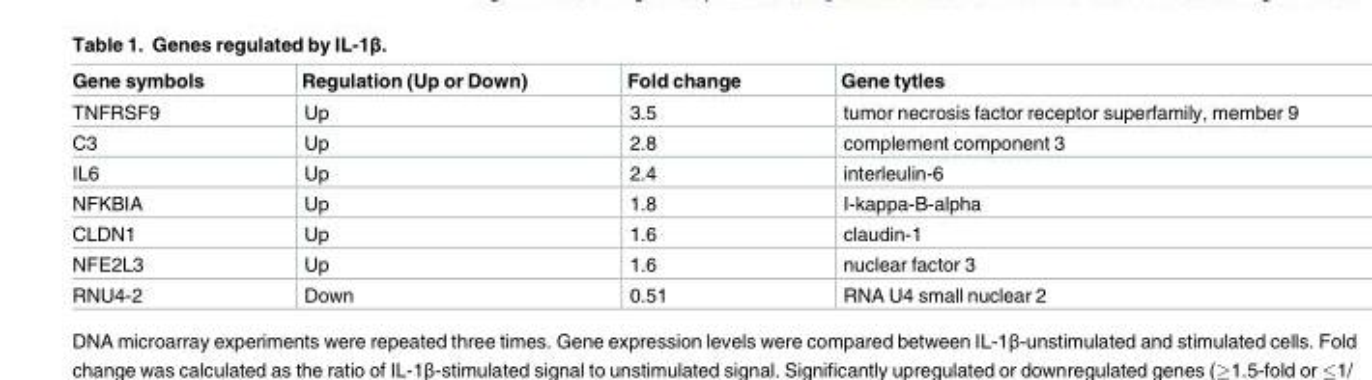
<table><thead><tr><td>Gene symbols</td><td>Regulation (Up or Down)</td><td>Fold change</td><td>Gene tytles</td></tr></thead><tbody><tr><td>TNFRSF9</td><td>Up</td><td>3.5</td><td>tumor necrosis factor receptor superfamily, member 9</td></tr><tr><td>C3</td><td>Up</td><td>2.8</td><td>complement component 3</td></tr><tr><td>IL6</td><td>Up</td><td>2.4</td><td>interleulin-6</td></tr><tr><td>NFKBIA</td><td>Up</td><td>1.8</td><td>I-kappa-B-alpha</td></tr><tr><td>CLDN1</td><td>Up</td><td>1.6</td><td>claudin-1</td></tr><tr><td>NFE2L3</td><td>Up</td><td>1.6</td><td>nuclear factor 3</td></tr><tr><td>RNU4-2</td><td>Down</td><td>0.51</td><td>RNA U4 small nuclear 2</td></tr></tbody></table>